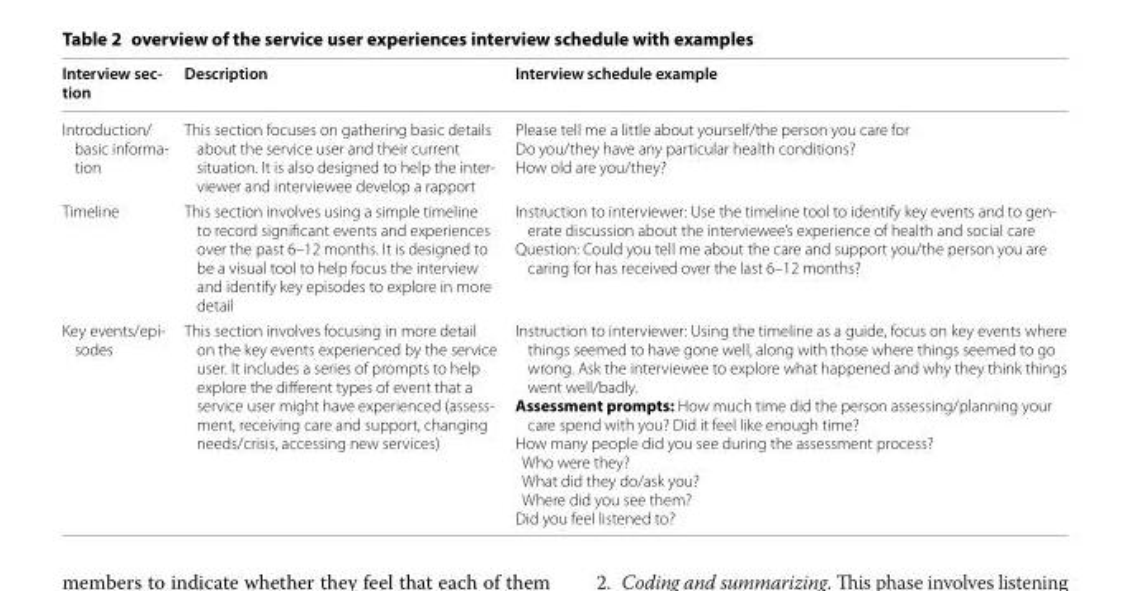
<table><thead><tr><td>Interview sec- tion</td><td>Description</td><td>Interview schedule example</td></tr></thead><tbody><tr><td>Introduction/ basic informa- tion</td><td>This section focuses on gathering basic details about the service user and their current situation. It is also designed to help the inter- viewer and interviewee develop a rapport</td><td>Please tell me a little about yourself/the person you care for Do you/they have any particular health conditions? How old are you/they?</td></tr><tr><td>Timeline</td><td>This section involves using a simple timeline to record significant events and experiences over the past 6–12 months. It is designed to be a visual tool to help focus the interview and identify key episodes to explore in more detail</td><td>Instruction to interviewer: Use the timeline tool to identify key events and to gen- erate discussion about the interviewee’s experience of health and social care Question: Could you tell me about the care and support you/the person you are caring for has received over the last 6–12 months?</td></tr><tr><td>Key events/epi- sodes</td><td>This section involves focusing in more detail on the key events experienced by the service user. It includes a series of prompts to help explore the different types of event that a service user might have experienced (assess- ment, receiving care and support, changing needs/crisis, accessing new services)</td><td>Instruction to interviewer: Using the timeline as a guide, focus on key events where things seemed to have gone well, along with those where things seemed to go wrong. Ask the interviewee to explore what happened and why they think things went well/badly. Assessment prompts: How much time did the person assessing/planning your care spend with you? Did it feel like enough time? How many people did you see during the assessment process? Who were they? What did they do/ask you? Where did you see them? Did you feel listened to?</td></tr></tbody></table>